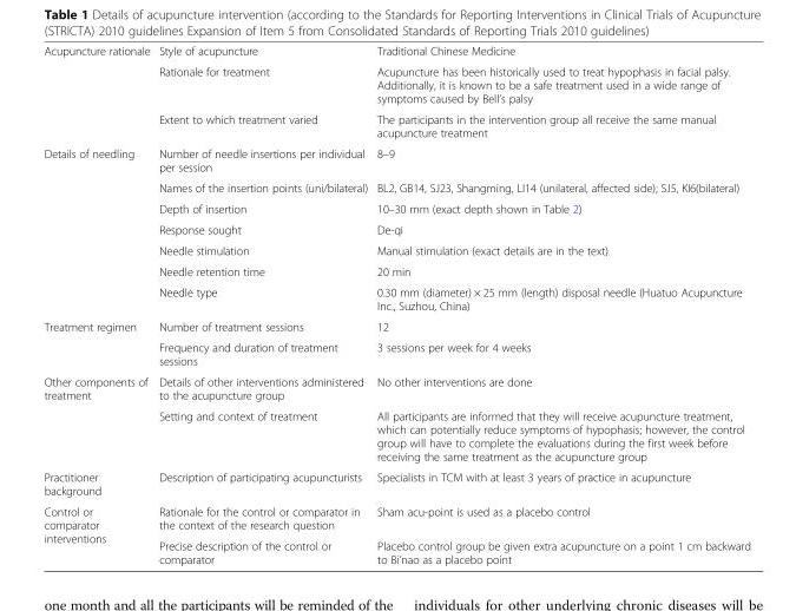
<table><tbody><tr><td rowspan="3">Acupuncture rationale</td><td>Style of acupuncture</td><td>Traditional Chinese Medicine</td></tr><tr><td>Rationale for treatment</td><td>Acupuncture has been historically used to treat hypophasis in facial palsy. Additionally, it is known to be a safe treatment used in a wide range of symptoms caused by Bell’s palsy</td></tr><tr><td>Extent to which treatment varied</td><td>The participants in the intervention group all receive the same manual acupuncture treatment</td></tr><tr><td rowspan="7">Details of needling</td><td>Number of needle insertions per individual per session</td><td>8–9</td></tr><tr><td>Names of the insertion points (uni/bilateral)</td><td>BL2, GB14, SJ23, Shangming, LI14 (unilateral, affected side); SJ5, KI6(bilateral)</td></tr><tr><td>Depth of insertion</td><td>10–30 mm (exact depth shown in Table 2)</td></tr><tr><td>Response sought</td><td>De-qi</td></tr><tr><td>Needle stimulation</td><td>Manual stimulation (exact details are in the text)</td></tr><tr><td>Needle retention time</td><td>20 min</td></tr><tr><td>Needle type</td><td>0.30 mm (diameter) × 25 mm (length) disposal needle (Huatuo Acupuncture Inc., Suzhou, China)</td></tr><tr><td rowspan="2">Treatment regimen</td><td>Number of treatment sessions</td><td>12</td></tr><tr><td>Frequency and duration of treatment sessions</td><td>3 sessions per week for 4 weeks</td></tr><tr><td rowspan="2">Other components of treatment</td><td>Details of other interventions administered to the acupuncture group</td><td>No other interventions are done</td></tr><tr><td>Setting and context of treatment</td><td>All participants are informed that they will receive acupuncture treatment, which can potentially reduce symptoms of hypophasis; however, the control group will have to complete the evaluations during the first week before receiving the same treatment as the acupuncture group</td></tr><tr><td>Practitioner background</td><td>Description of participating acupuncturists</td><td>Specialists in TCM with at least 3 years of practice in acupuncture</td></tr><tr><td rowspan="2">Control or comparator interventions</td><td>Rationale for the control or comparator in the context of the research question</td><td>Sham acu-point is used as a placebo control</td></tr><tr><td>Precise description of the control or comparator</td><td>Placebo control group be given extra acupuncture on a point 1 cm backward to Bi’nao as a placebo point</td></tr></tbody></table>